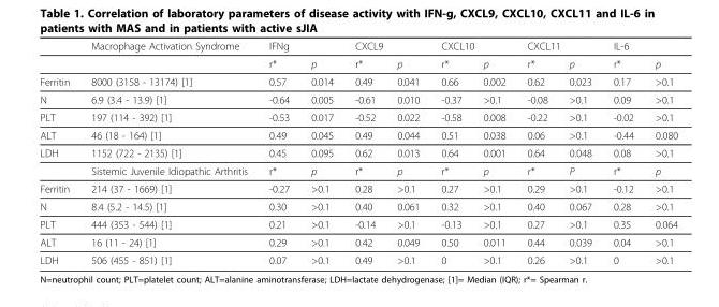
<table><thead><tr><td rowspan="2"></td><td rowspan="2">Macrophage Activation Syndrome</td><td colspan="2">IFNg</td><td colspan="2">CXCL9</td><td colspan="2">CXCL10</td><td colspan="2">CXCL11</td><td colspan="2">IL-6</td></tr><tr><td>r*</td><td>p</td><td>r*</td><td>p</td><td>r*</td><td>p</td><td>r*</td><td>p</td><td>r*</td><td>p</td></tr></thead><tbody><tr><td>Ferritin</td><td>8000 (3158 - 13174) [1]</td><td>0.57</td><td>0.014</td><td>0.49</td><td>0.041</td><td>0.66</td><td>0.002</td><td>0.62</td><td>0.023</td><td>0.17</td><td>&gt;0.1</td></tr><tr><td>N</td><td>6.9 (3.4 - 13.9) [1]</td><td>-0.64</td><td>0.005</td><td>-0.61</td><td>0.010</td><td>-0.37</td><td>&gt;0.1</td><td>-0.08</td><td>&gt;0.1</td><td>0.09</td><td>&gt;0.1</td></tr><tr><td>PLT</td><td>197 (114 - 392) [1]</td><td>-0.53</td><td>0.017</td><td>-0.52</td><td>0.022</td><td>-0.58</td><td>0.008</td><td>-0.22</td><td>&gt;0.1</td><td>-0.02</td><td>&gt;0.1</td></tr><tr><td>ALT</td><td>46 (18 - 164) [1]</td><td>0.49</td><td>0.045</td><td>0.49</td><td>0.044</td><td>0.51</td><td>0.038</td><td>0.06</td><td>&gt;0.1</td><td>-0.44</td><td>0.080</td></tr><tr><td rowspan="2">LDH</td><td>1152 (722 - 2135) [1]</td><td>0.45</td><td>0.095</td><td>0.62</td><td>0.013</td><td>0.64</td><td>0.001</td><td>0.64</td><td>0.048</td><td>0.08</td><td>&gt;0.1</td></tr><tr><td>Sistemic Juvenile Idiopathic Arthritis</td><td>r*</td><td>p</td><td>r*</td><td>p</td><td>r*</td><td>p</td><td>r*</td><td>P</td><td>r*</td><td>p</td></tr><tr><td>Ferritin</td><td>214 (37 - 1669) [1]</td><td>-0.27</td><td>&gt;0.1</td><td>0.28</td><td>&gt;0.1</td><td>0.27</td><td>&gt;0.1</td><td>0.29</td><td>&gt;0.1</td><td>-0.12</td><td>&gt;0.1</td></tr><tr><td>N</td><td>8.4 (5.2 - 14.5) [1]</td><td>0.30</td><td>&gt;0.1</td><td>0.40</td><td>0.061</td><td>0.32</td><td>&gt;0.1</td><td>0.40</td><td>0.067</td><td>0.28</td><td>&gt;0.1</td></tr><tr><td>PLT</td><td>444 (353 - 544) [1]</td><td>0.21</td><td>&gt;0.1</td><td>-0.14</td><td>&gt;0.1</td><td>-0.13</td><td>&gt;0.1</td><td>0.27</td><td>&gt;0.1</td><td>0.35</td><td>0.064</td></tr><tr><td>ALT</td><td>16 (11 - 24) [1]</td><td>0.29</td><td>&gt;0.1</td><td>0.42</td><td>0.049</td><td>0.50</td><td>0.011</td><td>0.44</td><td>0.039</td><td>0.04</td><td>&gt;0.1</td></tr><tr><td>LDH</td><td>506 (455 - 851) [1]</td><td>0.07</td><td>&gt;0.1</td><td>0.49</td><td>&gt;0.1</td><td>0</td><td>&gt;0.1</td><td>0.26</td><td>&gt;0.1</td><td>0</td><td>&gt;0.1</td></tr></tbody></table>